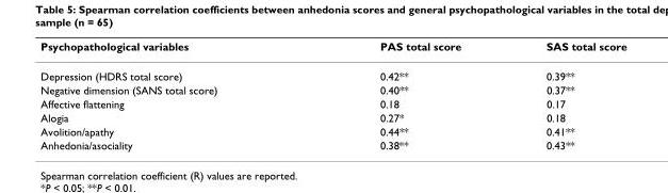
<table><thead><tr><td>Psychopathological variables</td><td>PAS total score</td><td>SAS total score</td></tr></thead><tbody><tr><td>Depression (HDRS total score)</td><td>0.42**</td><td>0.39**</td></tr><tr><td>Negative dimension (SANS total score)</td><td>0.40**</td><td>0.37**</td></tr><tr><td>Affective flattening</td><td>0.18</td><td>0.17</td></tr><tr><td>Alogia</td><td>0.27*</td><td>0.18</td></tr><tr><td>Avolition/apathy</td><td>0.44**</td><td>0.41**</td></tr><tr><td>Anhedonia/asociality</td><td>0.38**</td><td>0.43**</td></tr></tbody></table>